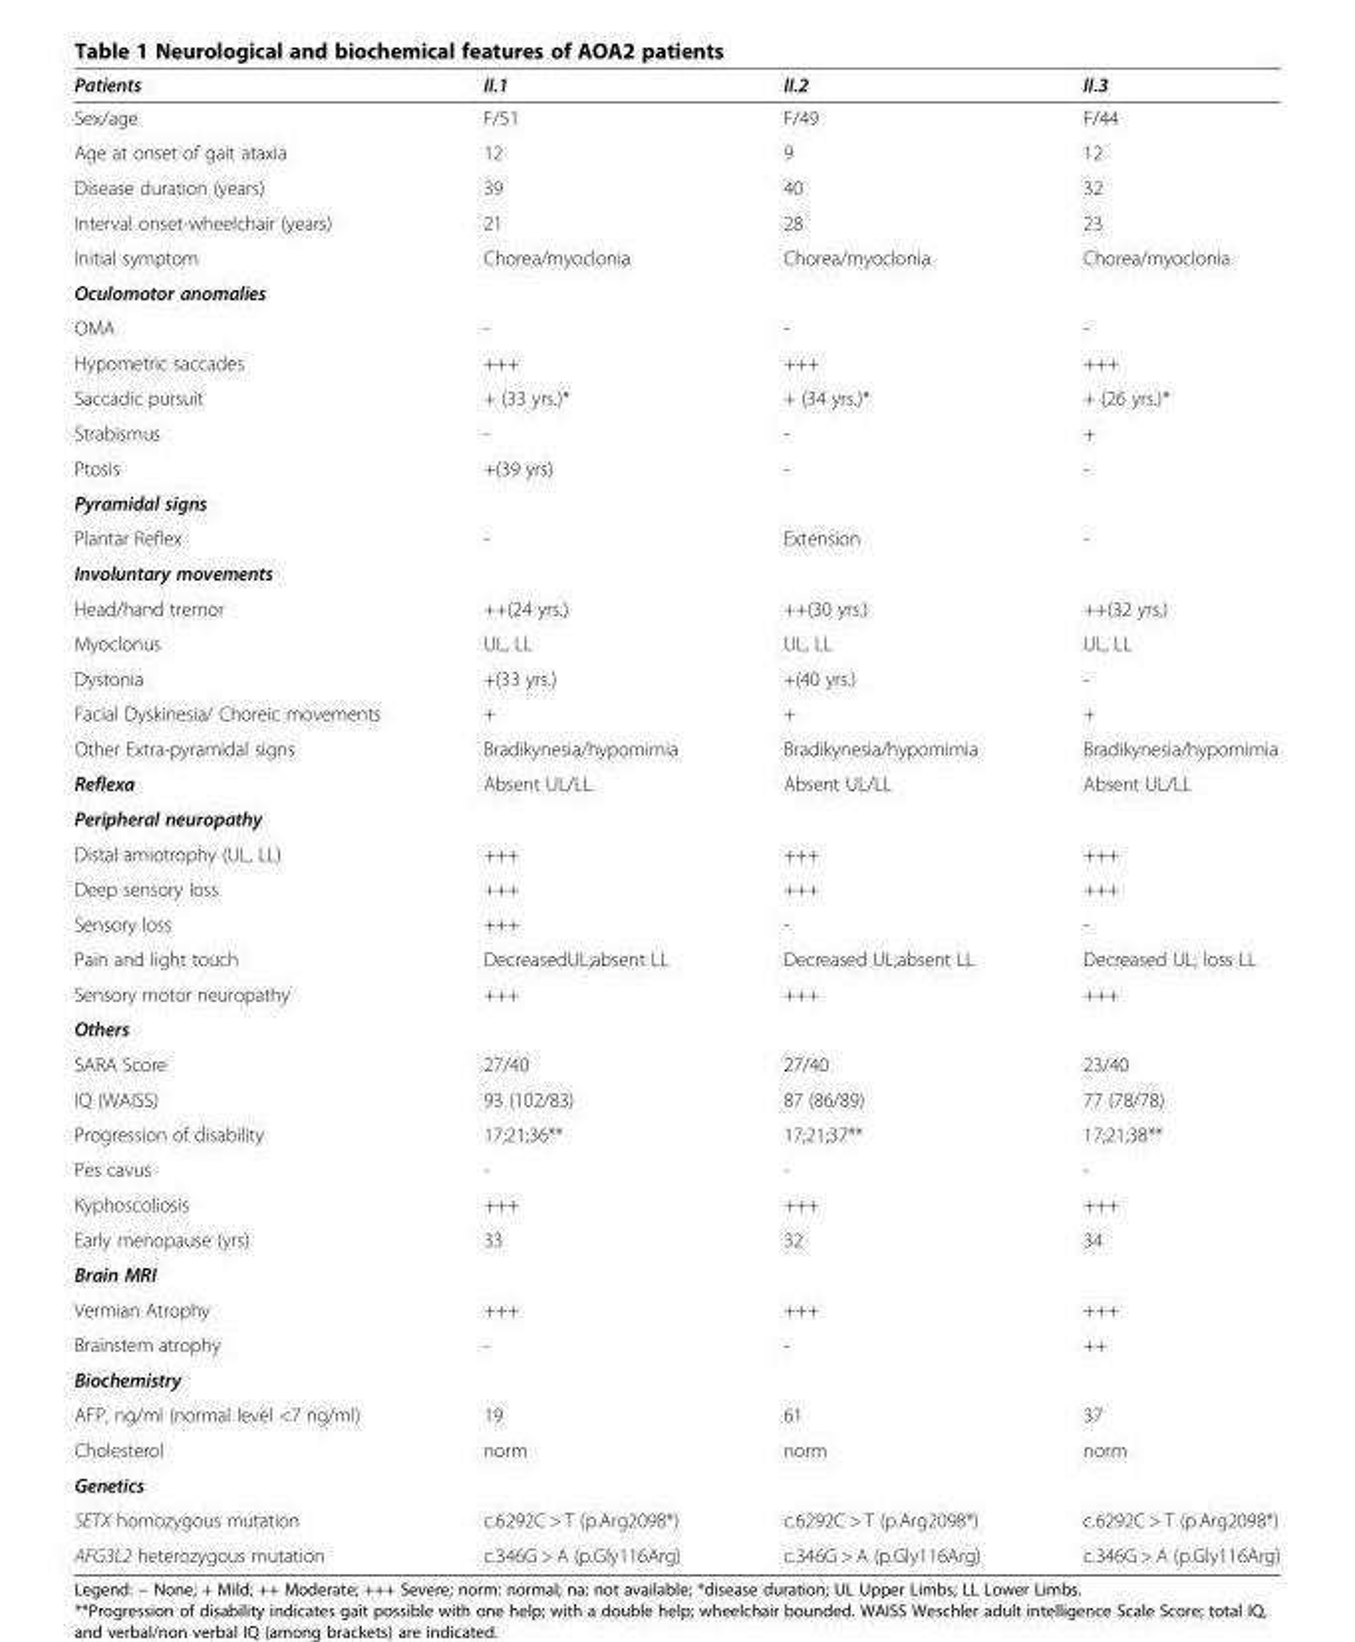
<table><thead><tr><td>Patients</td><td>II.1</td><td>II.2</td><td>II.3</td></tr></thead><tbody><tr><td>Sex/age</td><td>F/51</td><td>F/49</td><td>F/44</td></tr><tr><td>Age at onset of gait ataxia</td><td>12</td><td>9</td><td>12</td></tr><tr><td>Disease duration (years)</td><td>39</td><td>40</td><td>32</td></tr><tr><td>Interval onset-wheelchair (years)</td><td>21</td><td>28</td><td>23</td></tr><tr><td>Initial symptom</td><td>Chorea/myoclonia</td><td>Chorea/myoclonia</td><td>Chorea/myoclonia</td></tr><tr><td colspan="4">Oculomotor anomalies</td></tr><tr><td>OMA</td><td>-</td><td>-</td><td>-</td></tr><tr><td>Hypometric saccades</td><td>+++</td><td>+++</td><td>+++</td></tr><tr><td>Saccadic pursuit</td><td>+ (33 yrs.)*</td><td>+ (34 yrs.)*</td><td>+ (26 yrs.)*</td></tr><tr><td>Strabismus</td><td>-</td><td>-</td><td>+</td></tr><tr><td>Ptosis</td><td>+(39 yrs)</td><td>-</td><td>-</td></tr><tr><td colspan="4">Pyramidal signs</td></tr><tr><td>Plantar Reflex</td><td>-</td><td>Extension</td><td>-</td></tr><tr><td colspan="4">Involuntary movements</td></tr><tr><td>Head/hand tremor</td><td>++(24 yrs.)</td><td>++(30 yrs.)</td><td>++(32 yrs.)</td></tr><tr><td>Myoclonus</td><td>UL, LL</td><td>UL, LL</td><td>UL, LL</td></tr><tr><td>Dystonia</td><td>+(33 yrs.)</td><td>+(40 yrs.)</td><td>-</td></tr><tr><td>Facial Dyskinesia/ Choreic movements</td><td>+</td><td>+</td><td>+</td></tr><tr><td>Other Extra-pyramidal signs</td><td>Bradikynesia/hypomimia</td><td>Bradikynesia/hypomimia</td><td>Bradikynesia/hypomimia</td></tr><tr><td>Reflexa</td><td>Absent UL/LL</td><td>Absent UL/LL</td><td>Absent UL/LL</td></tr><tr><td colspan="4">Peripheral neuropathy</td></tr><tr><td>Distal amiotrophy (UL, LL)</td><td>+++</td><td>+++</td><td>+++</td></tr><tr><td>Deep sensory loss</td><td>+++</td><td>+++</td><td>+++</td></tr><tr><td>Sensory loss</td><td>+++</td><td>-</td><td>-</td></tr><tr><td>Pain and light touch</td><td>DecreasedUL;absent LL</td><td>Decreased UL;absent LL</td><td>Decreased UL; loss LL</td></tr><tr><td>Sensory motor neuropathy</td><td>+++</td><td>+++</td><td>+++</td></tr><tr><td colspan="4">Others</td></tr><tr><td>SARA Score</td><td>27/40</td><td>27/40</td><td>23/40</td></tr><tr><td>IQ (WAISS)</td><td>93 (102/83)</td><td>87 (86/89)</td><td>77 (78/78)</td></tr><tr><td>Progression of disability</td><td>17;21;36**</td><td>17;21;37**</td><td>17;21;38**</td></tr><tr><td>Pes cavus</td><td>-</td><td>-</td><td>-</td></tr><tr><td>Kyphoscoliosis</td><td>+++</td><td>+++</td><td>+++</td></tr><tr><td>Early menopause (yrs)</td><td>33</td><td>32</td><td>34</td></tr><tr><td colspan="4">Brain MRI</td></tr><tr><td>Vermian Atrophy</td><td>+++</td><td>+++</td><td>+++</td></tr><tr><td>Brainstem atrophy</td><td>-</td><td>-</td><td>++</td></tr><tr><td colspan="4">Biochemistry</td></tr><tr><td>AFP, ng/ml (normal level &lt;7 ng/ml)</td><td>19</td><td>61</td><td>37</td></tr><tr><td>Cholesterol</td><td>norm</td><td>norm</td><td>norm</td></tr><tr><td colspan="4">Genetics</td></tr><tr><td>SETX homozygous mutation</td><td>c.6292C &gt; T (p.Arg2098*)</td><td>c.6292C &gt; T (p.Arg2098*)</td><td>c.6292C &gt; T (p.Arg2098*)</td></tr><tr><td>AFG3L2 heterozygous mutation</td><td>c.346G &gt; A (p.Gly116Arg)</td><td>c.346G &gt; A (p.Gly116Arg)</td><td>c.346G &gt; A (p.Gly116Arg)</td></tr></tbody></table>